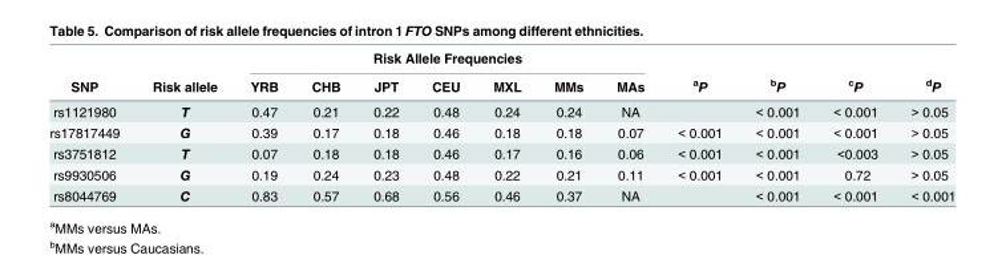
<table><thead><tr><td rowspan="2">SNP</td><td rowspan="2">Risk allele</td><td colspan="7">Risk Allele Frequencies</td><td rowspan="2"><sup>a</sup>P</td><td rowspan="2"><sup>b</sup>P</td><td rowspan="2"><sup>c</sup>P</td><td rowspan="2"><sup>d</sup>P</td></tr><tr><td>YRB</td><td>CHB</td><td>JPT</td><td>CEU</td><td>MXL</td><td>MMs</td><td>MAs</td></tr></thead><tbody><tr><td>rs1121980</td><td>T</td><td>0.47</td><td>0.21</td><td>0.22</td><td>0.48</td><td>0.24</td><td>0.24</td><td>NA</td><td></td><td>&lt; 0.001</td><td>&lt; 0.001</td><td>&gt; 0.05</td></tr><tr><td>rs17817449</td><td>G</td><td>0.39</td><td>0.17</td><td>0.18</td><td>0.46</td><td>0.18</td><td>0.18</td><td>0.07</td><td>&lt; 0.001</td><td>&lt; 0.001</td><td>&lt; 0.001</td><td>&gt; 0.05</td></tr><tr><td>rs3751812</td><td>T</td><td>0.07</td><td>0.18</td><td>0.18</td><td>0.46</td><td>0.17</td><td>0.16</td><td>0.06</td><td>&lt; 0.001</td><td>&lt; 0.001</td><td>&lt;0.003</td><td>&gt; 0.05</td></tr><tr><td>rs9930506</td><td>G</td><td>0.19</td><td>0.24</td><td>0.23</td><td>0.48</td><td>0.22</td><td>0.21</td><td>0.11</td><td>&lt; 0.001</td><td>&lt; 0.001</td><td>0.72</td><td>&gt; 0.05</td></tr><tr><td>rs8044769</td><td>C</td><td>0.83</td><td>0.57</td><td>0.68</td><td>0.56</td><td>0.46</td><td>0.37</td><td>NA</td><td></td><td>&lt; 0.001</td><td>&lt; 0.001</td><td>&lt; 0.001</td></tr></tbody></table>